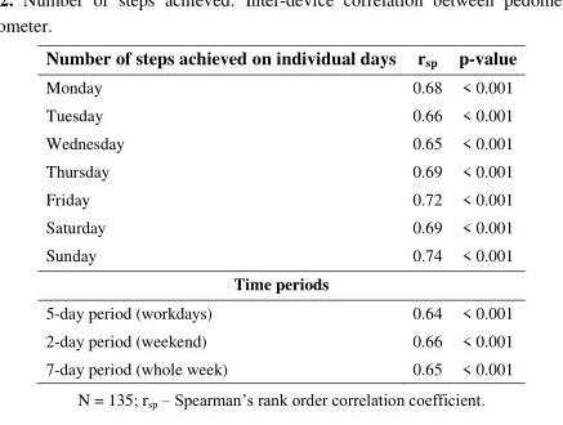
<table><thead><tr><td>Number of steps achieved on individual days</td><td>r<sub>sp</sub></td><td>p-value</td></tr></thead><tbody><tr><td>Monday</td><td>0.68</td><td>&lt; 0.001</td></tr><tr><td>Tuesday</td><td>0.66</td><td>&lt; 0.001</td></tr><tr><td>Wednesday</td><td>0.65</td><td>&lt; 0.001</td></tr><tr><td>Thursday</td><td>0.69</td><td>&lt; 0.001</td></tr><tr><td>Friday</td><td>0.72</td><td>&lt; 0.001</td></tr><tr><td>Saturday</td><td>0.69</td><td>&lt; 0.001</td></tr><tr><td>Sunday</td><td>0.74</td><td>&lt; 0.001</td></tr><tr><td colspan="3">Time periods</td></tr><tr><td>5-day period (workdays)</td><td>0.64</td><td>&lt; 0.001</td></tr><tr><td>2-day period (weekend)</td><td>0.66</td><td>&lt; 0.001</td></tr><tr><td>7-day period (whole week)</td><td>0.65</td><td>&lt; 0.001</td></tr></tbody></table>